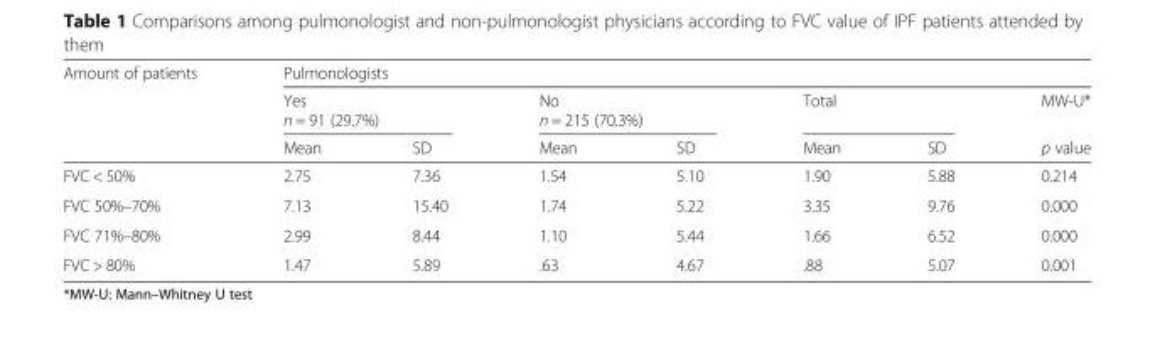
<table><thead><tr><td rowspan="3">Amount of patients</td><td colspan="7">Pulmonologists</td></tr><tr><td colspan="2">Yes n = 91 (29.7%)</td><td colspan="2">No n = 215 (70.3%)</td><td colspan="2">Total</td><td rowspan="2">MW-U* p value</td></tr><tr><td>Mean</td><td>SD</td><td>Mean</td><td>SD</td><td>Mean</td><td>SD</td></tr></thead><tbody><tr><td>FVC &lt; 50%</td><td>2.75</td><td>7.36</td><td>1.54</td><td>5.10</td><td>1.90</td><td>5.88</td><td>0.214</td></tr><tr><td>FVC 50%–70%</td><td>7.13</td><td>15.40</td><td>1.74</td><td>5.22</td><td>3.35</td><td>9.76</td><td>0.000</td></tr><tr><td>FVC 71%–80%</td><td>2.99</td><td>8.44</td><td>1.10</td><td>5.44</td><td>1.66</td><td>6.52</td><td>0.000</td></tr><tr><td>FVC &gt; 80%</td><td>1.47</td><td>5.89</td><td>.63</td><td>4.67</td><td>.88</td><td>5.07</td><td>0.001</td></tr></tbody></table>